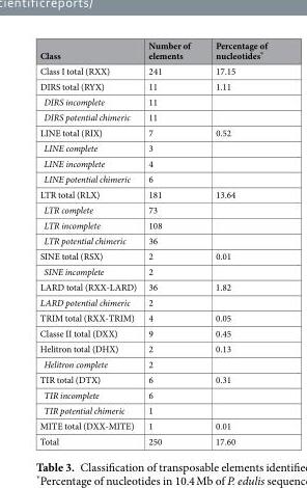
<table><thead><tr><td>Class</td><td>Number of elements</td><td>Percentage of nucleotides*</td></tr></thead><tbody><tr><td>Class I total (RXX)</td><td>241</td><td>17.15</td></tr><tr><td>DIRS total (RYX)</td><td>11</td><td>1.11</td></tr><tr><td>DIRS incomplete</td><td>11</td><td></td></tr><tr><td>DIRS potential chimeric</td><td>11</td><td></td></tr><tr><td>LINE total (RIX)</td><td>7</td><td>0.52</td></tr><tr><td>LINE complete</td><td>3</td><td></td></tr><tr><td>LINE incomplete</td><td>4</td><td></td></tr><tr><td>LINE potential chimeric</td><td>6</td><td></td></tr><tr><td>LTR total (RLX)</td><td>181</td><td>13.64</td></tr><tr><td>LTR complete</td><td>73</td><td></td></tr><tr><td>LTR incomplete</td><td>108</td><td></td></tr><tr><td>LTR potential chimeric</td><td>36</td><td></td></tr><tr><td>SINE total (RSX)</td><td>2</td><td>0.01</td></tr><tr><td>SINE incomplete</td><td>2</td><td></td></tr><tr><td>LARD total (RXX-LARD)</td><td>36</td><td>1.82</td></tr><tr><td>LARD potential chimeric</td><td>2</td><td></td></tr><tr><td>TRIM total (RXX-TRIM)</td><td>4</td><td>0.05</td></tr><tr><td>Classe II total (DXX)</td><td>9</td><td>0.45</td></tr><tr><td>Helitron total (DHX)</td><td>2</td><td>0.13</td></tr><tr><td>Helitron complete</td><td>2</td><td></td></tr><tr><td>TIR total (DTX)</td><td>6</td><td>0.31</td></tr><tr><td>TIR incomplete</td><td>6</td><td></td></tr><tr><td>TIR potential chimeric</td><td>1</td><td></td></tr><tr><td>MITE total (DXX-MITE)</td><td>1</td><td>0.01</td></tr><tr><td>Total</td><td>250</td><td>17.60</td></tr></tbody></table>